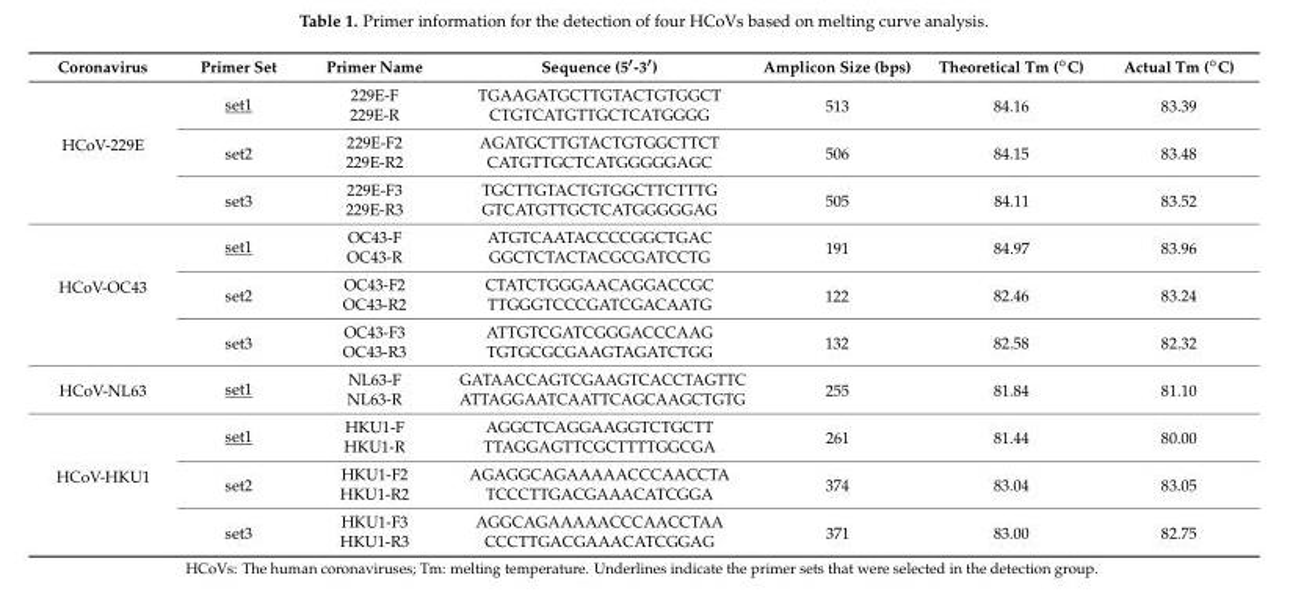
<table><thead><tr><td>Coronavirus</td><td>Primer Set</td><td>Primer Name</td><td>Sequence (5′-3′)</td><td>Amplicon Size (bps)</td><td>Theoretical Tm (◦C)</td><td>Actual Tm (◦C)</td></tr></thead><tbody><tr><td rowspan="6">HCoV-229E</td><td rowspan="2">set1</td><td>229E-F</td><td>TGAAGATGCTTGTACTGTGGCT</td><td rowspan="2">513</td><td rowspan="2">84.16</td><td rowspan="2">83.39</td></tr><tr><td>229E-R</td><td>CTGTCATGTTGCTCATGGGG</td></tr><tr><td rowspan="2">set2</td><td>229E-F2</td><td>AGATGCTTGTACTGTGGCTTCT</td><td rowspan="2">506</td><td rowspan="2">84.15</td><td rowspan="2">83.48</td></tr><tr><td>229E-R2</td><td>CATGTTGCTCATGGGGGAGC</td></tr><tr><td rowspan="2">set3</td><td>229E-F3</td><td>TGCTTGTACTGTGGCTTCTTTG</td><td rowspan="2">505</td><td rowspan="2">84.11</td><td rowspan="2">83.52</td></tr><tr><td>229E-R3</td><td>GTCATGTTGCTCATGGGGGAG</td></tr><tr><td rowspan="6">HCoV-OC43</td><td rowspan="2">set1</td><td>OC43-F</td><td>ATGTCAATACCCCGGCTGAC</td><td rowspan="2">191</td><td rowspan="2">84.97</td><td rowspan="2">83.96</td></tr><tr><td>OC43-R</td><td>GGCTCTACTACGCGATCCTG</td></tr><tr><td rowspan="2">set2</td><td>OC43-F2</td><td>CTATCTGGGAACAGGACCGC</td><td rowspan="2">122</td><td rowspan="2">82.46</td><td rowspan="2">83.24</td></tr><tr><td>OC43-R2</td><td>TTGGGTCCCGATCGACAATG</td></tr><tr><td rowspan="2">set3</td><td>OC43-F3</td><td>ATTGTCGATCGGGACCCAAG</td><td rowspan="2">132</td><td rowspan="2">82.58</td><td rowspan="2">82.32</td></tr><tr><td>OC43-R3</td><td>TGTGCGCGAAGTAGATCTGG</td></tr><tr><td rowspan="2">HCoV-NL63</td><td rowspan="2">set1</td><td>NL63-F</td><td>GATAACCAGTCGAAGTCACCTAGTTC</td><td rowspan="2">255</td><td rowspan="2">81.84</td><td rowspan="2">81.10</td></tr><tr><td>NL63-R</td><td>ATTAGGAATCAATTCAGCAAGCTGTG</td></tr><tr><td rowspan="6">HCoV-HKU1</td><td rowspan="2">set1</td><td>HKU1-F</td><td>AGGCTCAGGAAGGTCTGCTT</td><td rowspan="2">261</td><td rowspan="2">81.44</td><td rowspan="2">80.00</td></tr><tr><td>HKU1-R</td><td>TTAGGAGTTCGCTTTTGGCGA</td></tr><tr><td rowspan="2">set2</td><td>HKU1-F2</td><td>AGAGGCAGAAAAACCCAACCTA</td><td rowspan="2">374</td><td rowspan="2">83.04</td><td rowspan="2">83.05</td></tr><tr><td>HKU1-R2</td><td>TCCCTTGACGAAACATCGGA</td></tr><tr><td rowspan="2">set3</td><td>HKU1-F3</td><td>AGGCAGAAAAACCCAACCTAA</td><td rowspan="2">371</td><td rowspan="2">83.00</td><td rowspan="2">82.75</td></tr><tr><td>HKU1-R3</td><td>CCCTTGACGAAACATCGGAG</td></tr></tbody></table>